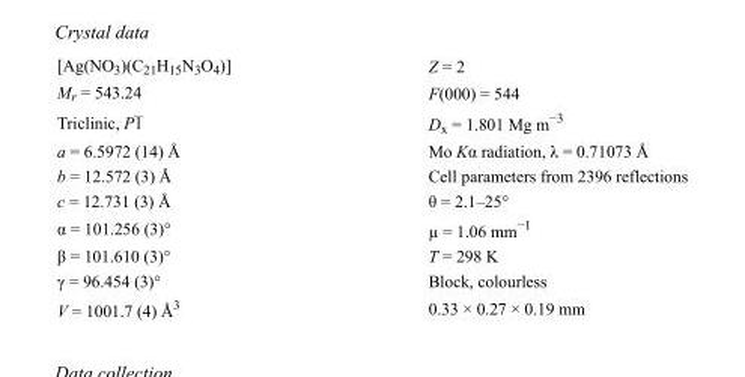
<table><tbody><tr><td>[Ag(NO<sub>3</sub>)(C<sub>21</sub>H<sub>15</sub>N<sub>3</sub>O<sub>4</sub>)]</td><td>Z = 2</td></tr><tr><td>M<sub>r</sub> = 543.24</td><td>F(000) = 544</td></tr><tr><td>Triclinic, P1</td><td>D<sub>x</sub> = 1.801 Mg m<sup>−3</sup></td></tr><tr><td>a = 6.5972 (14) Å</td><td>Mo Kα radiation, λ = 0.71073 Å</td></tr><tr><td>b = 12.572 (3) Å</td><td>Cell parameters from 2396 reflections</td></tr><tr><td>c = 12.731 (3) Å</td><td>θ = 2.1–25°</td></tr><tr><td>α = 101.256 (3)°</td><td>µ = 1.06 mm<sup>−1</sup></td></tr><tr><td>β = 101.610 (3)°</td><td>T = 298 K</td></tr><tr><td>γ = 96.454 (3)°</td><td>Block, colourless</td></tr><tr><td>V = 1001.7 (4) Å<sup>3</sup></td><td>0.33 × 0.27 × 0.19 mm</td></tr></tbody></table>